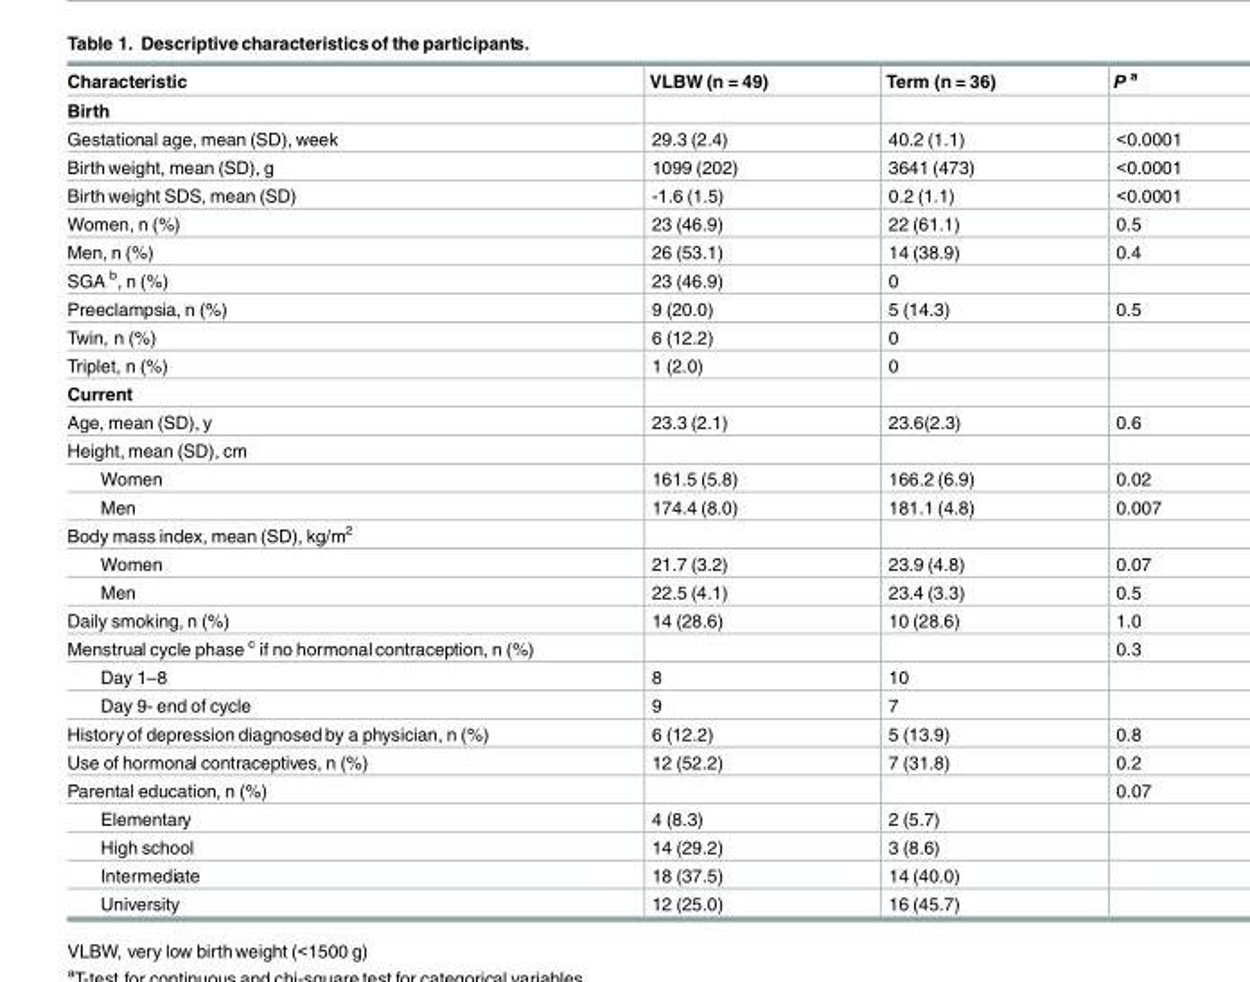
<table><thead><tr><td>Characteristic</td><td>VLBW (n = 49)</td><td>Term (n = 36)</td><td>P <sup>a</sup></td></tr></thead><tbody><tr><td colspan="4">Birth</td></tr><tr><td>Gestational age, mean (SD), week</td><td>29.3 (2.4)</td><td>40.2 (1.1)</td><td>&lt;0.0001</td></tr><tr><td>Birth weight, mean (SD), g</td><td>1099 (202)</td><td>3641 (473)</td><td>&lt;0.0001</td></tr><tr><td>Birth weight SDS, mean (SD)</td><td>-1.6 (1.5)</td><td>0.2 (1.1)</td><td>&lt;0.0001</td></tr><tr><td>Women, n (%)</td><td>23 (46.9)</td><td>22 (61.1)</td><td>0.5</td></tr><tr><td>Men, n (%)</td><td>26 (53.1)</td><td>14 (38.9)</td><td>0.4</td></tr><tr><td>SGA <sup>b</sup>, n (%)</td><td>23 (46.9)</td><td>0</td><td></td></tr><tr><td>Preeclampsia, n (%)</td><td>9 (20.0)</td><td>5 (14.3)</td><td>0.5</td></tr><tr><td>Twin, n (%)</td><td>6 (12.2)</td><td>0</td><td></td></tr><tr><td>Triplet, n (%)</td><td>1 (2.0)</td><td>0</td><td></td></tr><tr><td colspan="4">Current</td></tr><tr><td>Age, mean (SD), y</td><td>23.3 (2.1)</td><td>23.6(2.3)</td><td>0.6</td></tr><tr><td colspan="4">Height, mean (SD), cm</td></tr><tr><td>Women</td><td>161.5 (5.8)</td><td>166.2 (6.9)</td><td>0.02</td></tr><tr><td>Men</td><td>174.4 (8.0)</td><td>181.1 (4.8)</td><td>0.007</td></tr><tr><td colspan="4">Body mass index, mean (SD), kg/m<sup>2</sup></td></tr><tr><td>Women</td><td>21.7 (3.2)</td><td>23.9 (4.8)</td><td>0.07</td></tr><tr><td>Men</td><td>22.5 (4.1)</td><td>23.4 (3.3)</td><td>0.5</td></tr><tr><td>Daily smoking, n (%)</td><td>14 (28.6)</td><td>10 (28.6)</td><td>1.0</td></tr><tr><td>Menstrual cycle phase <sup>c</sup> if no hormonal contraception, n (%)</td><td></td><td></td><td>0.3</td></tr><tr><td>Day 1–8</td><td>8</td><td>10</td><td></td></tr><tr><td>Day 9- end of cycle</td><td>9</td><td>7</td><td></td></tr><tr><td>History of depression diagnosed by a physician, n (%)</td><td>6 (12.2)</td><td>5 (13.9)</td><td>0.8</td></tr><tr><td>Use of hormonal contraceptives, n (%)</td><td>12 (52.2)</td><td>7 (31.8)</td><td>0.2</td></tr><tr><td>Parental education, n (%)</td><td></td><td></td><td>0.07</td></tr><tr><td>Elementary</td><td>4 (8.3)</td><td>2 (5.7)</td><td></td></tr><tr><td>High school</td><td>14 (29.2)</td><td>3 (8.6)</td><td></td></tr><tr><td>Intermediate</td><td>18 (37.5)</td><td>14 (40.0)</td><td></td></tr><tr><td>University</td><td>12 (25.0)</td><td>16 (45.7)</td><td></td></tr></tbody></table>